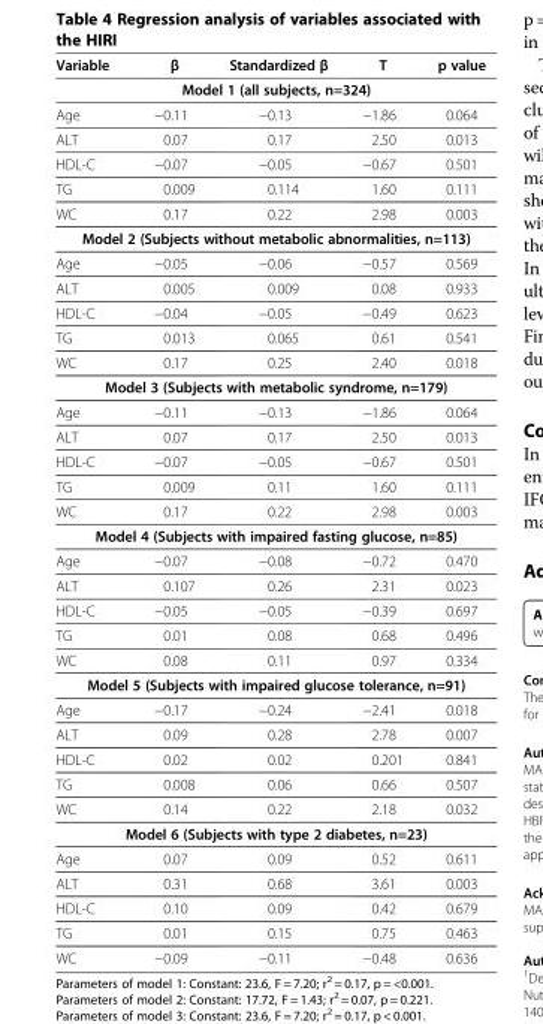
<table><thead><tr><td>Variable</td><td>β</td><td>Standardized β</td><td>T</td><td>p value</td></tr></thead><tbody><tr><td colspan="5">Model 1 (all subjects, n=324)</td></tr><tr><td>Age</td><td>−0.11</td><td>−0.13</td><td>−1.86</td><td>0.064</td></tr><tr><td>ALT</td><td>0.07</td><td>0.17</td><td>2.50</td><td>0.013</td></tr><tr><td>HDL-C</td><td>−0.07</td><td>−0.05</td><td>−0.67</td><td>0.501</td></tr><tr><td>TG</td><td>0.009</td><td>0.114</td><td>1.60</td><td>0.111</td></tr><tr><td>WC</td><td>0.17</td><td>0.22</td><td>2.98</td><td>0.003</td></tr><tr><td colspan="5">Model 2 (Subjects without metabolic abnormalities, n=113)</td></tr><tr><td>Age</td><td>−0.05</td><td>−0.06</td><td>−0.57</td><td>0.569</td></tr><tr><td>ALT</td><td>0.005</td><td>0.009</td><td>0.08</td><td>0.933</td></tr><tr><td>HDL-C</td><td>−0.04</td><td>−0.05</td><td>−0.49</td><td>0.623</td></tr><tr><td>TG</td><td>0.013</td><td>0.065</td><td>0.61</td><td>0.541</td></tr><tr><td>WC</td><td>0.17</td><td>0.25</td><td>2.40</td><td>0.018</td></tr><tr><td colspan="5">Model 3 (Subjects with metabolic syndrome, n=179)</td></tr><tr><td>Age</td><td>−0.11</td><td>−0.13</td><td>−1.86</td><td>0.064</td></tr><tr><td>ALT</td><td>0.07</td><td>0.17</td><td>2.50</td><td>0.013</td></tr><tr><td>HDL-C</td><td>−0.07</td><td>−0.05</td><td>−0.67</td><td>0.501</td></tr><tr><td>TG</td><td>0.009</td><td>0.11</td><td>1.60</td><td>0.111</td></tr><tr><td>WC</td><td>0.17</td><td>0.22</td><td>2.98</td><td>0.003</td></tr><tr><td colspan="5">Model 4 (Subjects with impaired fasting glucose, n=85)</td></tr><tr><td>Age</td><td>−0.07</td><td>−0.08</td><td>−0.72</td><td>0.470</td></tr><tr><td>ALT</td><td>0.107</td><td>0.26</td><td>2.31</td><td>0.023</td></tr><tr><td>HDL-C</td><td>−0.05</td><td>−0.05</td><td>−0.39</td><td>0.697</td></tr><tr><td>TG</td><td>0.01</td><td>0.08</td><td>0.68</td><td>0.496</td></tr><tr><td>WC</td><td>0.08</td><td>0.11</td><td>0.97</td><td>0.334</td></tr><tr><td colspan="5">Model 5 (Subjects with impaired glucose tolerance, n=91)</td></tr><tr><td>Age</td><td>−0.17</td><td>−0.24</td><td>−2.41</td><td>0.018</td></tr><tr><td>ALT</td><td>0.09</td><td>0.28</td><td>2.78</td><td>0.007</td></tr><tr><td>HDL-C</td><td>0.02</td><td>0.02</td><td>0.201</td><td>0.841</td></tr><tr><td>TG</td><td>0.008</td><td>0.06</td><td>0.66</td><td>0.507</td></tr><tr><td>WC</td><td>0.14</td><td>0.22</td><td>2.18</td><td>0.032</td></tr><tr><td colspan="5">Model 6 (Subjects with type 2 diabetes, n=23)</td></tr><tr><td>Age</td><td>0.07</td><td>0.09</td><td>0.52</td><td>0.611</td></tr><tr><td>ALT</td><td>0.31</td><td>0.68</td><td>3.61</td><td>0.003</td></tr><tr><td>HDL-C</td><td>0.10</td><td>0.09</td><td>0.42</td><td>0.679</td></tr><tr><td>TG</td><td>0.01</td><td>0.15</td><td>0.75</td><td>0.463</td></tr><tr><td>WC</td><td>−0.09</td><td>−0.11</td><td>−0.48</td><td>0.636</td></tr></tbody></table>